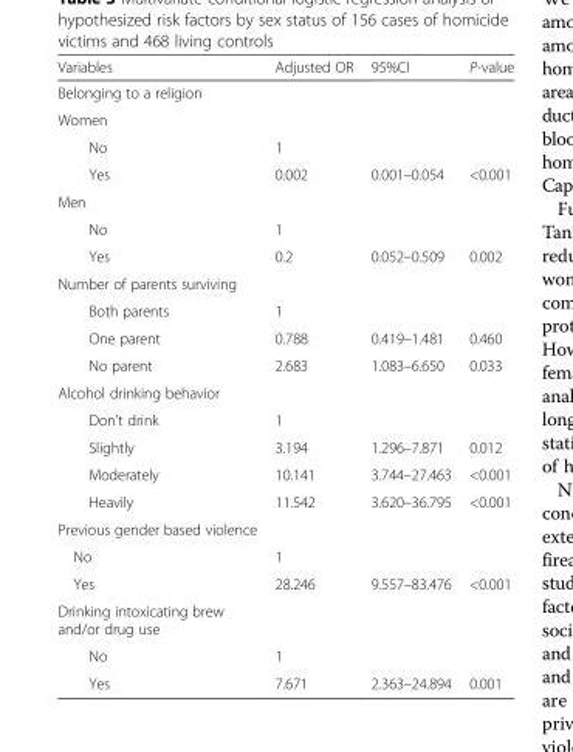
<table><thead><tr><td>Variables</td><td>Adjusted OR</td><td>95%CI</td><td>P-value</td></tr></thead><tbody><tr><td colspan="4">Belonging to a religion</td></tr><tr><td colspan="4">Women</td></tr><tr><td>No</td><td>1</td><td></td><td></td></tr><tr><td>Yes</td><td>0.002</td><td>0.001–0.054</td><td>&lt;0.001</td></tr><tr><td colspan="4">Men</td></tr><tr><td>No</td><td>1</td><td></td><td></td></tr><tr><td>Yes</td><td>0.2</td><td>0.052–0.509</td><td>0.002</td></tr><tr><td colspan="4">Number of parents surviving</td></tr><tr><td>Both parents</td><td>1</td><td></td><td></td></tr><tr><td>One parent</td><td>0.788</td><td>0.419–1.481</td><td>0.460</td></tr><tr><td>No parent</td><td>2.683</td><td>1.083–6.650</td><td>0.033</td></tr><tr><td colspan="4">Alcohol drinking behavior</td></tr><tr><td>Don’t drink</td><td>1</td><td></td><td></td></tr><tr><td>Slightly</td><td>3.194</td><td>1.296–7.871</td><td>0.012</td></tr><tr><td>Moderately</td><td>10.141</td><td>3.744–27.463</td><td>&lt;0.001</td></tr><tr><td>Heavily</td><td>11.542</td><td>3.620–36.795</td><td>&lt;0.001</td></tr><tr><td colspan="4">Previous gender based violence</td></tr><tr><td>No</td><td>1</td><td></td><td></td></tr><tr><td>Yes</td><td>28.246</td><td>9.557–83.476</td><td>&lt;0.001</td></tr><tr><td colspan="4">Drinking intoxicating brew and/or drug use</td></tr><tr><td>No</td><td>1</td><td></td><td></td></tr><tr><td>Yes</td><td>7.671</td><td>2.363–24.894</td><td>0.001</td></tr></tbody></table>